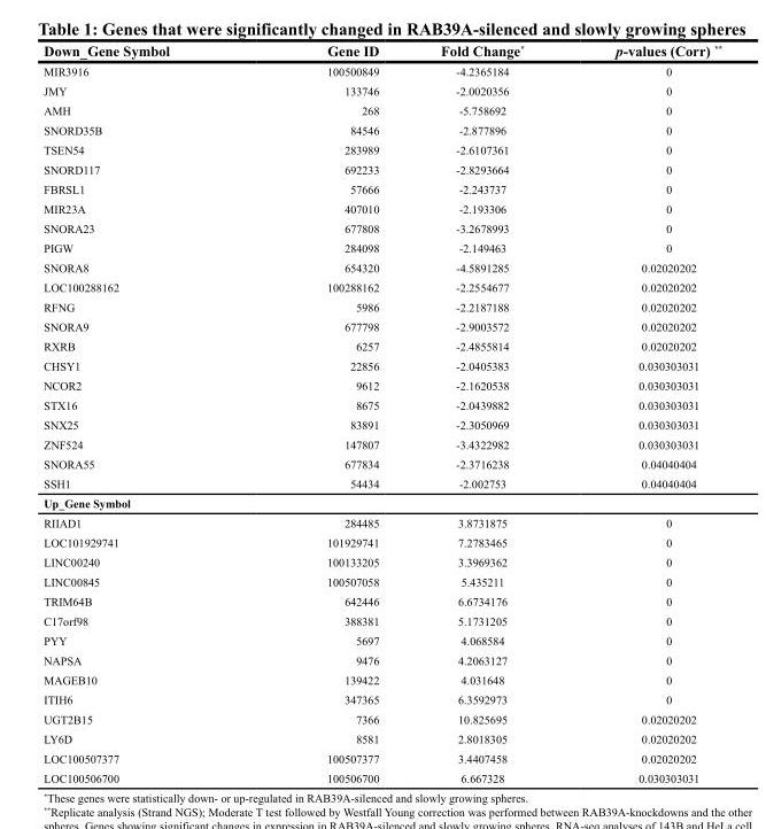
<table><thead><tr><td>Down_Gene Symbol</td><td>Gene ID</td><td>Fold Change*</td><td>p-values (Corr) **</td></tr></thead><tbody><tr><td>MIR3916</td><td>100500849</td><td>-4.2365184</td><td>0</td></tr><tr><td>JMY</td><td>133746</td><td>-2.0020356</td><td>0</td></tr><tr><td>AMH</td><td>268</td><td>-5.758692</td><td>0</td></tr><tr><td>SNORD35B</td><td>84546</td><td>-2.877896</td><td>0</td></tr><tr><td>TSEN54</td><td>283989</td><td>-2.6107361</td><td>0</td></tr><tr><td>SNORD117</td><td>692233</td><td>-2.8293664</td><td>0</td></tr><tr><td>FBRSL1</td><td>57666</td><td>-2.243737</td><td>0</td></tr><tr><td>MIR23A</td><td>407010</td><td>-2.193306</td><td>0</td></tr><tr><td>SNORA23</td><td>677808</td><td>-3.2678993</td><td>0</td></tr><tr><td>PIGW</td><td>284098</td><td>-2.149463</td><td>0</td></tr><tr><td>SNORA8</td><td>654320</td><td>-4.5891285</td><td>0.02020202</td></tr><tr><td>LOC100288162</td><td>100288162</td><td>-2.2554677</td><td>0.02020202</td></tr><tr><td>RFNG</td><td>5986</td><td>-2.2187188</td><td>0.02020202</td></tr><tr><td>SNORA9</td><td>677798</td><td>-2.9003572</td><td>0.02020202</td></tr><tr><td>RXRB</td><td>6257</td><td>-2.4855814</td><td>0.02020202</td></tr><tr><td>CHSY1</td><td>22856</td><td>-2.0405383</td><td>0.030303031</td></tr><tr><td>NCOR2</td><td>9612</td><td>-2.1620538</td><td>0.030303031</td></tr><tr><td>STX16</td><td>8675</td><td>-2.0439882</td><td>0.030303031</td></tr><tr><td>SNX25</td><td>83891</td><td>-2.3050969</td><td>0.030303031</td></tr><tr><td>ZNF524</td><td>147807</td><td>-3.4322982</td><td>0.030303031</td></tr><tr><td>SNORA55</td><td>677834</td><td>-2.3716238</td><td>0.04040404</td></tr><tr><td>SSH1</td><td>54434</td><td>-2.002753</td><td>0.04040404</td></tr><tr><td colspan="4">Up_Gene Symbol</td></tr><tr><td>RIIAD1</td><td>284485</td><td>3.8731875</td><td>0</td></tr><tr><td>LOC101929741</td><td>101929741</td><td>7.2783465</td><td>0</td></tr><tr><td>LINC00240</td><td>100133205</td><td>3.3969362</td><td>0</td></tr><tr><td>LINC00845</td><td>100507058</td><td>5.435211</td><td>0</td></tr><tr><td>TRIM64B</td><td>642446</td><td>6.6734176</td><td>0</td></tr><tr><td>C17orf98</td><td>388381</td><td>5.1731205</td><td>0</td></tr><tr><td>PYY</td><td>5697</td><td>4.068584</td><td>0</td></tr><tr><td>NAPSA</td><td>9476</td><td>4.2063127</td><td>0</td></tr><tr><td>MAGEB10</td><td>139422</td><td>4.031648</td><td>0</td></tr><tr><td>ITIH6</td><td>347365</td><td>6.3592973</td><td>0</td></tr><tr><td>UGT2B15</td><td>7366</td><td>10.825695</td><td>0.02020202</td></tr><tr><td>LY6D</td><td>8581</td><td>2.8018305</td><td>0.02020202</td></tr><tr><td>LOC100507377</td><td>100507377</td><td>3.4407458</td><td>0.02020202</td></tr><tr><td>LOC100506700</td><td>100506700</td><td>6.667328</td><td>0.030303031</td></tr></tbody></table>